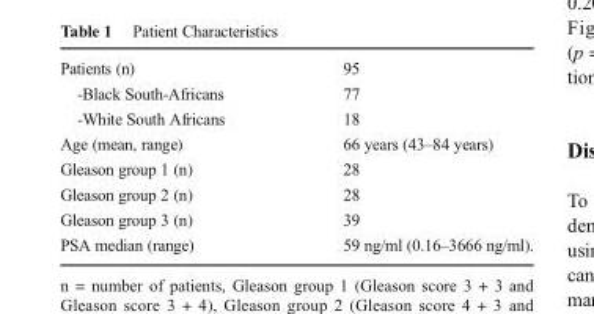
<table><tbody><tr><td>Patients (n)</td><td>95</td></tr><tr><td>-Black South-Africans</td><td>77</td></tr><tr><td>-White South Africans</td><td>18</td></tr><tr><td>Age (mean, range)</td><td>66 years (43–84 years)</td></tr><tr><td>Gleason group 1 (n)</td><td>28</td></tr><tr><td>Gleason group 2 (n)</td><td>28</td></tr><tr><td>Gleason group 3 (n)</td><td>39</td></tr><tr><td>PSA median (range)</td><td>59 ng/ml (0.16–3666 ng/ml).</td></tr></tbody></table>